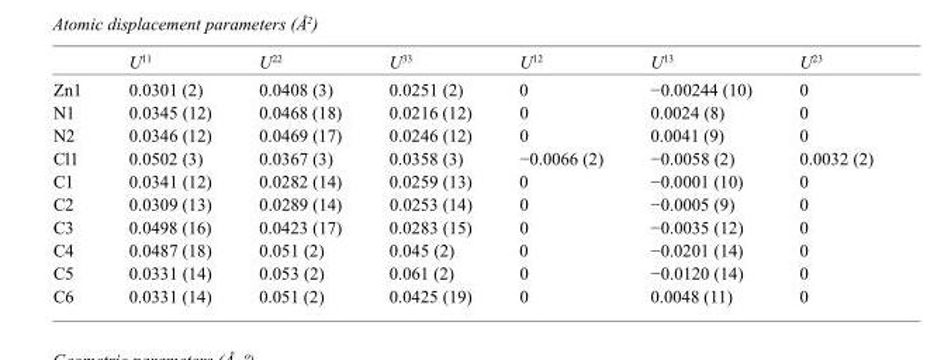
<table><thead><tr><td></td><td>U<sup>11</sup></td><td>U<sup>22</sup></td><td>U<sup>33</sup></td><td>U<sup>12</sup></td><td>U<sup>13</sup></td><td>U<sup>23</sup></td></tr></thead><tbody><tr><td>Zn1</td><td>0.0301 (2)</td><td>0.0408 (3)</td><td>0.0251 (2)</td><td>0</td><td>−0.00244 (10)</td><td>0</td></tr><tr><td>N1</td><td>0.0345 (12)</td><td>0.0468 (18)</td><td>0.0216 (12)</td><td>0</td><td>0.0024 (8)</td><td>0</td></tr><tr><td>N2</td><td>0.0346 (12)</td><td>0.0469 (17)</td><td>0.0246 (12)</td><td>0</td><td>0.0041 (9)</td><td>0</td></tr><tr><td>Cl1</td><td>0.0502 (3)</td><td>0.0367 (3)</td><td>0.0358 (3)</td><td>−0.0066 (2)</td><td>−0.0058 (2)</td><td>0.0032 (2)</td></tr><tr><td>C1</td><td>0.0341 (12)</td><td>0.0282 (14)</td><td>0.0259 (13)</td><td>0</td><td>−0.0001 (10)</td><td>0</td></tr><tr><td>C2</td><td>0.0309 (13)</td><td>0.0289 (14)</td><td>0.0253 (14)</td><td>0</td><td>−0.0005 (9)</td><td>0</td></tr><tr><td>C3</td><td>0.0498 (16)</td><td>0.0423 (17)</td><td>0.0283 (15)</td><td>0</td><td>−0.0035 (12)</td><td>0</td></tr><tr><td>C4</td><td>0.0487 (18)</td><td>0.051 (2)</td><td>0.045 (2)</td><td>0</td><td>−0.0201 (14)</td><td>0</td></tr><tr><td>C5</td><td>0.0331 (14)</td><td>0.053 (2)</td><td>0.061 (2)</td><td>0</td><td>−0.0120 (14)</td><td>0</td></tr><tr><td>C6</td><td>0.0331 (14)</td><td>0.051 (2)</td><td>0.0425 (19)</td><td>0</td><td>0.0048 (11)</td><td>0</td></tr></tbody></table>